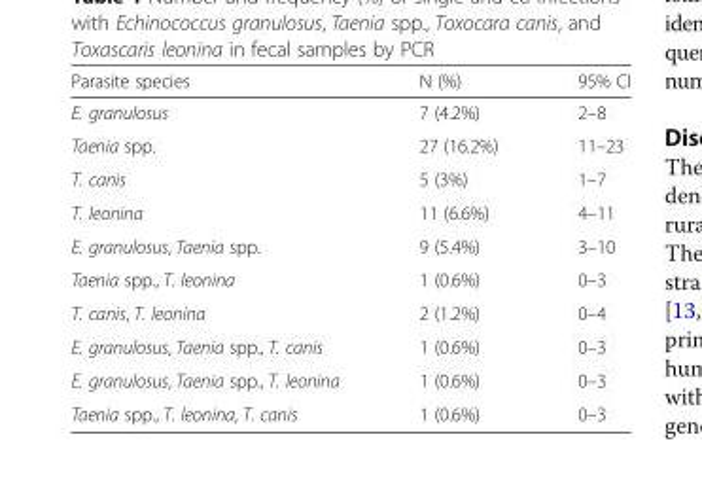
<table><thead><tr><td>Parasite species</td><td>N (%)</td><td>95% CI</td></tr></thead><tbody><tr><td>E. granulosus</td><td>7 (4.2%)</td><td>2–8</td></tr><tr><td>Taenia spp.</td><td>27 (16.2%)</td><td>11–23</td></tr><tr><td>T. canis</td><td>5 (3%)</td><td>1–7</td></tr><tr><td>T. leonina</td><td>11 (6.6%)</td><td>4–11</td></tr><tr><td>E. granulosus, Taenia spp.</td><td>9 (5.4%)</td><td>3–10</td></tr><tr><td>Taenia spp., T. leonina</td><td>1 (0.6%)</td><td>0–3</td></tr><tr><td>T. canis, T. leonina</td><td>2 (1.2%)</td><td>0–4</td></tr><tr><td>E. granulosus, Taenia spp., T. canis</td><td>1 (0.6%)</td><td>0–3</td></tr><tr><td>E. granulosus, Taenia spp., T. leonina</td><td>1 (0.6%)</td><td>0–3</td></tr><tr><td>Taenia spp., T. leonina, T. canis</td><td>1 (0.6%)</td><td>0–3</td></tr></tbody></table>